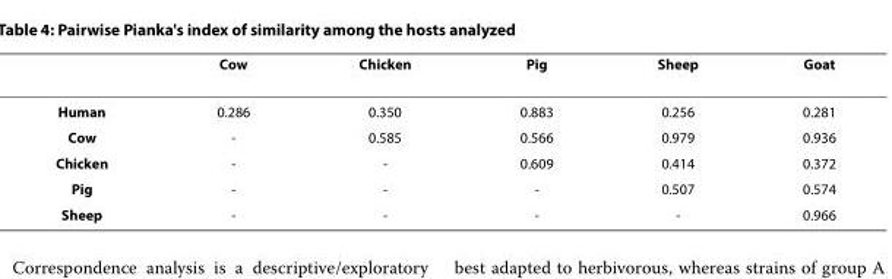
<table><thead><tr><td></td><td>Cow</td><td>Chicken</td><td>Pig</td><td>Sheep</td><td>Goat</td></tr></thead><tbody><tr><td>Human</td><td>0.286</td><td>0.350</td><td>0.883</td><td>0.256</td><td>0.281</td></tr><tr><td>Cow</td><td>-</td><td>0.585</td><td>0.566</td><td>0.979</td><td>0.936</td></tr><tr><td>Chicken</td><td>-</td><td>-</td><td>0.609</td><td>0.414</td><td>0.372</td></tr><tr><td>Pig</td><td>-</td><td>-</td><td>-</td><td>0.507</td><td>0.574</td></tr><tr><td>Sheep</td><td>-</td><td>-</td><td>-</td><td>-</td><td>0.966</td></tr></tbody></table>